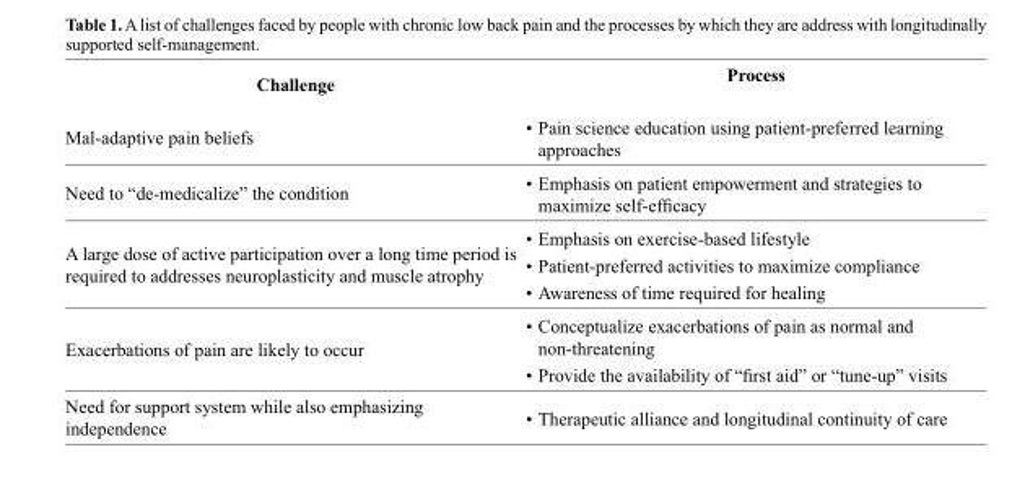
<table><thead><tr><td>Challenge</td><td>Process</td></tr></thead><tbody><tr><td>Mal-adaptive pain beliefs</td><td>• Pain science education using patient-preferred learning approaches</td></tr><tr><td>Need to “de-medicalize” the condition</td><td>• Emphasis on patient empowerment and strategies to maximize self-efficacy</td></tr><tr><td>A large dose of active participation over a long time period is required to addresses neuroplasticity and muscle atrophy</td><td>• Emphasis on exercise-based lifestyle • Patient-preferred activities to maximize compliance • Awareness of time required for healing</td></tr><tr><td>Exacerbations of pain are likely to occur</td><td>• Conceptualize exacerbations of pain as normal and non-threatening • Provide the availability of “first aid” or “tune-up” visits</td></tr><tr><td>Need for support system while also emphasizing independence</td><td>• Therapeutic alliance and longitudinal continuity of care</td></tr></tbody></table>